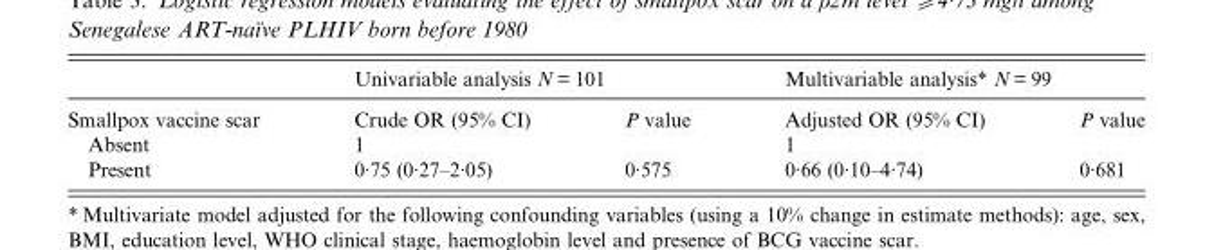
<table><thead><tr><td rowspan="2">Smallpox vaccine scar</td><td colspan="2">Univariable analysis N = 101</td><td colspan="2">Multivariable analysis* N = 99</td></tr><tr><td>Crude OR (95% CI)</td><td>P value</td><td>Adjusted OR (95% CI)</td><td>P value</td></tr></thead><tbody><tr><td>Absent</td><td>1</td><td></td><td>1</td><td></td></tr><tr><td>Present</td><td>0·75 (0·27–2·05)</td><td>0·575</td><td>0·66 (0·10–4·74)</td><td>0·681</td></tr></tbody></table>